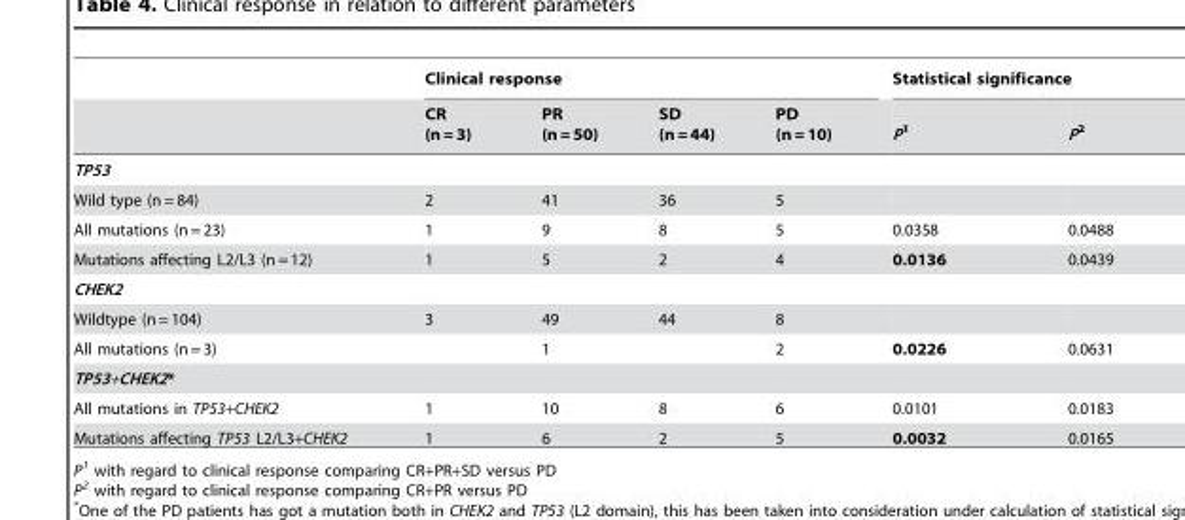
<table><thead><tr><td rowspan="2"></td><td colspan="4">Clinical response</td><td colspan="2">Statistical significance</td></tr><tr><td>CR (n = 3)</td><td>PR (n = 50)</td><td>SD (n = 44)</td><td>PD (n = 10)</td><td>P<sup>1</sup></td><td>P<sup>2</sup></td></tr></thead><tbody><tr><td colspan="7">TP53</td></tr><tr><td>Wild type (n = 84)</td><td>2</td><td>41</td><td>36</td><td>5</td><td></td><td></td></tr><tr><td>All mutations (n = 23)</td><td>1</td><td>9</td><td>8</td><td>5</td><td>0.0358</td><td>0.0488</td></tr><tr><td>Mutations affecting L2/L3 (n = 12)</td><td>1</td><td>5</td><td>2</td><td>4</td><td>0.0136</td><td>0.0439</td></tr><tr><td colspan="7">CHEK2</td></tr><tr><td>Wildtype (n = 104)</td><td>3</td><td>49</td><td>44</td><td>8</td><td></td><td></td></tr><tr><td>All mutations (n = 3)</td><td></td><td>1</td><td></td><td>2</td><td>0.0226</td><td>0.0631</td></tr><tr><td colspan="7">TP53+CHEK2*</td></tr><tr><td>All mutations in TP53+CHEK2</td><td>1</td><td>10</td><td>8</td><td>6</td><td>0.0101</td><td>0.0183</td></tr><tr><td>Mutations affecting TP53 L2/L3+CHEK2</td><td>1</td><td>6</td><td>2</td><td>5</td><td>0.0032</td><td>0.0165</td></tr></tbody></table>